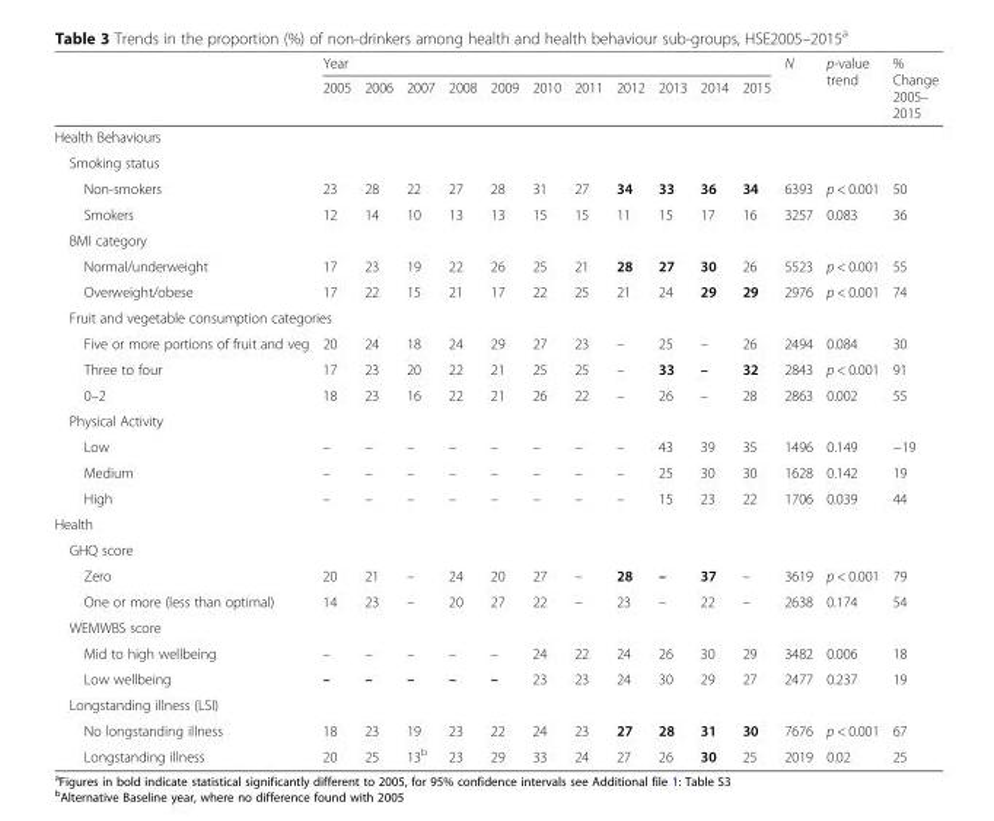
<table><thead><tr><td rowspan="2"></td><td colspan="11">Year</td><td rowspan="2">N</td><td rowspan="2">p-value trend</td><td rowspan="2">% Change 2005– 2015</td></tr><tr><td>2005</td><td>2006</td><td>2007</td><td>2008</td><td>2009</td><td>2010</td><td>2011</td><td>2012</td><td>2013</td><td>2014</td><td>2015</td></tr></thead><tbody><tr><td colspan="15">Health Behaviours</td></tr><tr><td colspan="15">Smoking status</td></tr><tr><td>Non-smokers</td><td>23</td><td>28</td><td>22</td><td>27</td><td>28</td><td>31</td><td>27</td><td>34</td><td>33</td><td>36</td><td>34</td><td>6393</td><td>p &lt; 0.001</td><td>50</td></tr><tr><td>Smokers</td><td>12</td><td>14</td><td>10</td><td>13</td><td>13</td><td>15</td><td>15</td><td>11</td><td>15</td><td>17</td><td>16</td><td>3257</td><td>0.083</td><td>36</td></tr><tr><td colspan="15">BMI category</td></tr><tr><td>Normal/underweight</td><td>17</td><td>23</td><td>19</td><td>22</td><td>26</td><td>25</td><td>21</td><td>28</td><td>27</td><td>30</td><td>26</td><td>5523</td><td>p &lt; 0.001</td><td>55</td></tr><tr><td>Overweight/obese</td><td>17</td><td>22</td><td>15</td><td>21</td><td>17</td><td>22</td><td>25</td><td>21</td><td>24</td><td>29</td><td>29</td><td>2976</td><td>p &lt; 0.001</td><td>74</td></tr><tr><td colspan="15">Fruit and vegetable consumption categories</td></tr><tr><td>Five or more portions of fruit and veg</td><td>20</td><td>24</td><td>18</td><td>24</td><td>29</td><td>27</td><td>23</td><td>–</td><td>25</td><td>–</td><td>26</td><td>2494</td><td>0.084</td><td>30</td></tr><tr><td>Three to four</td><td>17</td><td>23</td><td>20</td><td>22</td><td>21</td><td>25</td><td>25</td><td>–</td><td>33</td><td>–</td><td>32</td><td>2843</td><td>p &lt; 0.001</td><td>91</td></tr><tr><td>0–2</td><td>18</td><td>23</td><td>16</td><td>22</td><td>21</td><td>26</td><td>22</td><td>–</td><td>26</td><td>–</td><td>28</td><td>2863</td><td>0.002</td><td>55</td></tr><tr><td colspan="15">Physical Activity</td></tr><tr><td>Low</td><td>–</td><td>–</td><td>–</td><td>–</td><td>–</td><td>–</td><td>–</td><td>–</td><td>43</td><td>39</td><td>35</td><td>1496</td><td>0.149</td><td>−19</td></tr><tr><td>Medium</td><td>–</td><td>–</td><td>–</td><td>–</td><td>–</td><td>–</td><td>–</td><td>–</td><td>25</td><td>30</td><td>30</td><td>1628</td><td>0.142</td><td>19</td></tr><tr><td>High</td><td>–</td><td>–</td><td>–</td><td>–</td><td>–</td><td>–</td><td>–</td><td>–</td><td>15</td><td>23</td><td>22</td><td>1706</td><td>0.039</td><td>44</td></tr><tr><td colspan="15">Health</td></tr><tr><td colspan="15">GHQ score</td></tr><tr><td>Zero</td><td>20</td><td>21</td><td>–</td><td>24</td><td>20</td><td>27</td><td>–</td><td>28</td><td>–</td><td>37</td><td>–</td><td>3619</td><td>p &lt; 0.001</td><td>79</td></tr><tr><td>One or more (less than optimal)</td><td>14</td><td>23</td><td>–</td><td>20</td><td>27</td><td>22</td><td>–</td><td>23</td><td>–</td><td>22</td><td>–</td><td>2638</td><td>0.174</td><td>54</td></tr><tr><td colspan="15">WEMWBS score</td></tr><tr><td>Mid to high wellbeing</td><td>–</td><td>–</td><td>–</td><td>–</td><td>–</td><td>24</td><td>22</td><td>24</td><td>26</td><td>30</td><td>29</td><td>3482</td><td>0.006</td><td>18</td></tr><tr><td>Low wellbeing</td><td>–</td><td>–</td><td>–</td><td>–</td><td>–</td><td>23</td><td>23</td><td>24</td><td>30</td><td>29</td><td>27</td><td>2477</td><td>0.237</td><td>19</td></tr><tr><td colspan="15">Longstanding illness (LSI)</td></tr><tr><td>No longstanding illness</td><td>18</td><td>23</td><td>19</td><td>23</td><td>22</td><td>24</td><td>23</td><td>27</td><td>28</td><td>31</td><td>30</td><td>7676</td><td>p &lt; 0.001</td><td>67</td></tr><tr><td>Longstanding illness</td><td>20</td><td>25</td><td>13<sup>b</sup></td><td>23</td><td>29</td><td>33</td><td>24</td><td>27</td><td>26</td><td>30</td><td>25</td><td>2019</td><td>0.02</td><td>25</td></tr></tbody></table>